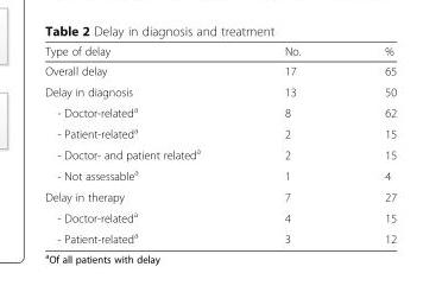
<table><thead><tr><td>Type of delay</td><td>No.</td><td>%</td></tr></thead><tbody><tr><td>Overall delay</td><td>17</td><td>65</td></tr><tr><td>Delay in diagnosis</td><td>13</td><td>50</td></tr><tr><td>- Doctor-related<sup>a</sup></td><td>8</td><td>62</td></tr><tr><td>- Patient-related<sup>a</sup></td><td>2</td><td>15</td></tr><tr><td>- Doctor- and patient related<sup>a</sup></td><td>2</td><td>15</td></tr><tr><td>- Not assessable<sup>a</sup></td><td>1</td><td>4</td></tr><tr><td>Delay in therapy</td><td>7</td><td>27</td></tr><tr><td>- Doctor-related<sup>a</sup></td><td>4</td><td>15</td></tr><tr><td>- Patient-related<sup>a</sup></td><td>3</td><td>12</td></tr></tbody></table>